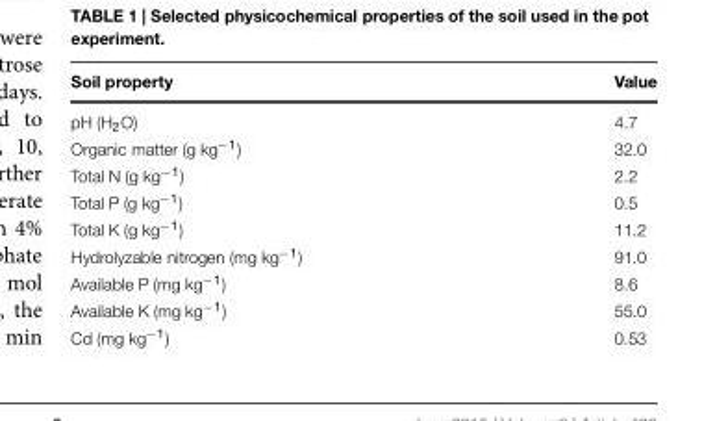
<table><thead><tr><td>Soil property</td><td>Value</td></tr></thead><tbody><tr><td>pH (H<sub>2</sub>O)</td><td>4.7</td></tr><tr><td>Organic matter (g kg<sup>−1</sup>)</td><td>32.0</td></tr><tr><td>Total N (g kg<sup>−1</sup>)</td><td>2.2</td></tr><tr><td>Total P (g kg<sup>−1</sup>)</td><td>0.5</td></tr><tr><td>Total K (g kg<sup>−1</sup>)</td><td>11.2</td></tr><tr><td>Hydrolyzable nitrogen (mg kg<sup>−1</sup>)</td><td>91.0</td></tr><tr><td>Available P (mg kg<sup>−1</sup>)</td><td>8.6</td></tr><tr><td>Available K (mg kg<sup>−1</sup>)</td><td>55.0</td></tr><tr><td>Cd (mg kg<sup>−1</sup>)</td><td>0.53</td></tr></tbody></table>